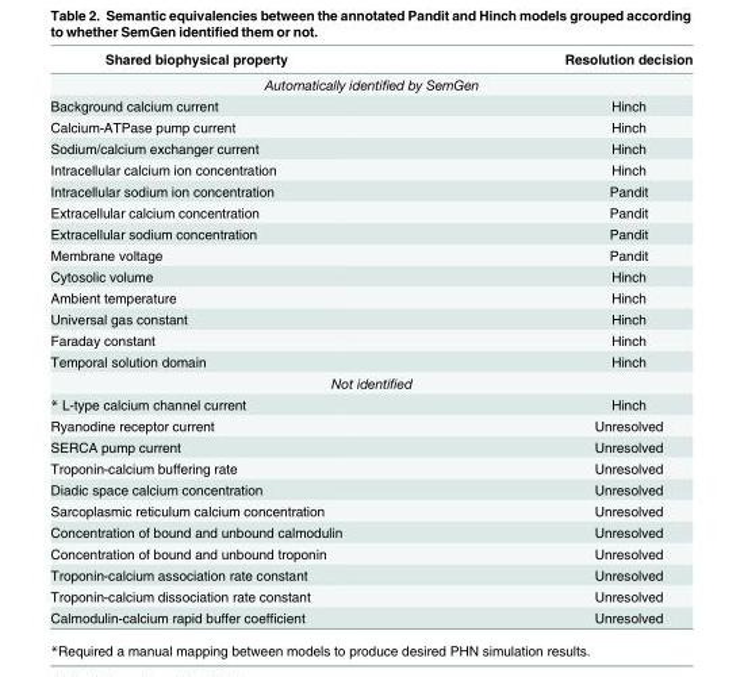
<table><thead><tr><td>Shared biophysical property</td><td>Resolution decision</td></tr></thead><tbody><tr><td colspan="2">Automatically identified by SemGen</td></tr><tr><td>Background calcium current</td><td>Hinch</td></tr><tr><td>Calcium-ATPase pump current</td><td>Hinch</td></tr><tr><td>Sodium/calcium exchanger current</td><td>Hinch</td></tr><tr><td>Intracellular calcium ion concentration</td><td>Hinch</td></tr><tr><td>Intracellular sodium ion concentration</td><td>Pandit</td></tr><tr><td>Extracellular calcium concentration</td><td>Pandit</td></tr><tr><td>Extracellular sodium concentration</td><td>Pandit</td></tr><tr><td>Membrane voltage</td><td>Pandit</td></tr><tr><td>Cytosolic volume</td><td>Hinch</td></tr><tr><td>Ambient temperature</td><td>Hinch</td></tr><tr><td>Universal gas constant</td><td>Hinch</td></tr><tr><td>Faraday constant</td><td>Hinch</td></tr><tr><td>Temporal solution domain</td><td>Hinch</td></tr><tr><td colspan="2">Not identified</td></tr><tr><td>* L-type calcium channel current</td><td>Hinch</td></tr><tr><td>Ryanodine receptor current</td><td>Unresolved</td></tr><tr><td>SERCA pump current</td><td>Unresolved</td></tr><tr><td>Troponin-calcium buffering rate</td><td>Unresolved</td></tr><tr><td>Diadic space calcium concentration</td><td>Unresolved</td></tr><tr><td>Sarcoplasmic reticulum calcium concentration</td><td>Unresolved</td></tr><tr><td>Concentration of bound and unbound calmodulin</td><td>Unresolved</td></tr><tr><td>Concentration of bound and unbound troponin</td><td>Unresolved</td></tr><tr><td>Troponin-calcium association rate constant</td><td>Unresolved</td></tr><tr><td>Troponin-calcium dissociation rate constant</td><td>Unresolved</td></tr><tr><td>Calmodulin-calcium rapid buffer coefficient</td><td>Unresolved</td></tr></tbody></table>